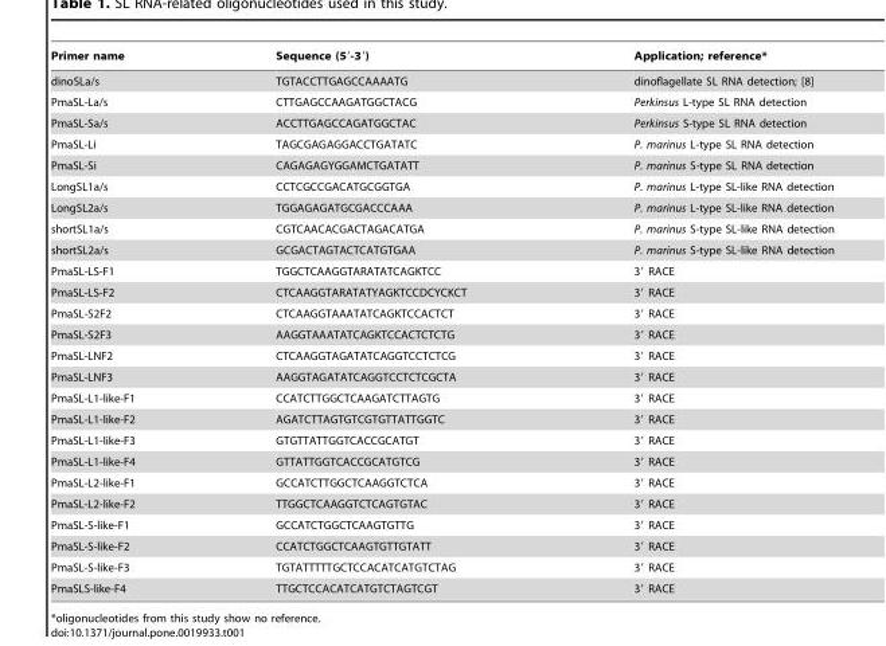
<table><thead><tr><td>Primer name</td><td>Sequence (5′-3′)</td><td>Application; reference*</td></tr></thead><tbody><tr><td>dinoSLa/s</td><td>TGTACCTTGAGCCAAAATG</td><td>dinoflagellate SL RNA detection; [8]</td></tr><tr><td>PmaSL-La/s</td><td>CTTGAGCCAAGATGGCTACG</td><td>Perkinsus L-type SL RNA detection</td></tr><tr><td>PmaSL-Sa/s</td><td>ACCTTGAGCCAGATGGCTAC</td><td>Perkinsus S-type SL RNA detection</td></tr><tr><td>PmaSL-Li</td><td>TAGCGAGAGGACCTGATATC</td><td>P. marinus L-type SL RNA detection</td></tr><tr><td>PmaSL-Si</td><td>CAGAGAGYGGAMCTGATATT</td><td>P. marinus S-type SL RNA detection</td></tr><tr><td>LongSL1a/s</td><td>CCTCGCCGACATGCGGTGA</td><td>P. marinus L-type SL-like RNA detection</td></tr><tr><td>LongSL2a/s</td><td>TGGAGAGATGCGACCCAAA</td><td>P. marinus L-type SL-like RNA detection</td></tr><tr><td>shortSL1a/s</td><td>CGTCAACACGACTAGACATGA</td><td>P. marinus S-type SL-like RNA detection</td></tr><tr><td>shortSL2a/s</td><td>GCGACTAGTACTCATGTGAA</td><td>P. marinus S-type SL-like RNA detection</td></tr><tr><td>PmaSL-LS-F1</td><td>TGGCTCAAGGTARATATCAGKTCC</td><td>3′ RACE</td></tr><tr><td>PmaSL-LS-F2</td><td>CTCAAGGTARATATYAGKTCCDCYCKCT</td><td>3′ RACE</td></tr><tr><td>PmaSL-S2F2</td><td>CTCAAGGTAAATATCAGKTCCACTCT</td><td>3′ RACE</td></tr><tr><td>PmaSL-S2F3</td><td>AAGGTAAATATCAGKTCCACTCTCTG</td><td>3′ RACE</td></tr><tr><td>PmaSL-LNF2</td><td>CTCAAGGTAGATATCAGGTCCTCTCG</td><td>3′ RACE</td></tr><tr><td>PmaSL-LNF3</td><td>AAGGTAGATATCAGGTCCTCTCGCTA</td><td>3′ RACE</td></tr><tr><td>PmaSL-L1-like-F1</td><td>CCATCTTGGCTCAAGATCTTAGTG</td><td>3′ RACE</td></tr><tr><td>PmaSL-L1-like-F2</td><td>AGATCTTAGTGTCGTGTTATTGGTC</td><td>3′ RACE</td></tr><tr><td>PmaSL-L1-like-F3</td><td>GTGTTATTGGTCACCGCATGT</td><td>3′ RACE</td></tr><tr><td>PmaSL-L1-like-F4</td><td>GTTATTGGTCACCGCATGTCG</td><td>3′ RACE</td></tr><tr><td>PmaSL-L2-like-F1</td><td>GCCATCTTGGCTCAAGGTCTCA</td><td>3′ RACE</td></tr><tr><td>PmaSL-L2-like-F2</td><td>TTGGCTCAAGGTCTCAGTGTAC</td><td>3′ RACE</td></tr><tr><td>PmaSL-S-like-F1</td><td>GCCATCTGGCTCAAGTGTTG</td><td>3′ RACE</td></tr><tr><td>PmaSL-S-like-F2</td><td>CCATCTGGCTCAAGTGTTGTATT</td><td>3′ RACE</td></tr><tr><td>PmaSL-S-like-F3</td><td>TGTATTTTTGCTCCACATCATGTCTAG</td><td>3′ RACE</td></tr><tr><td>PmaSLS-like-F4</td><td>TTGCTCCACATCATGTCTAGTCGT</td><td>3′ RACE</td></tr></tbody></table>